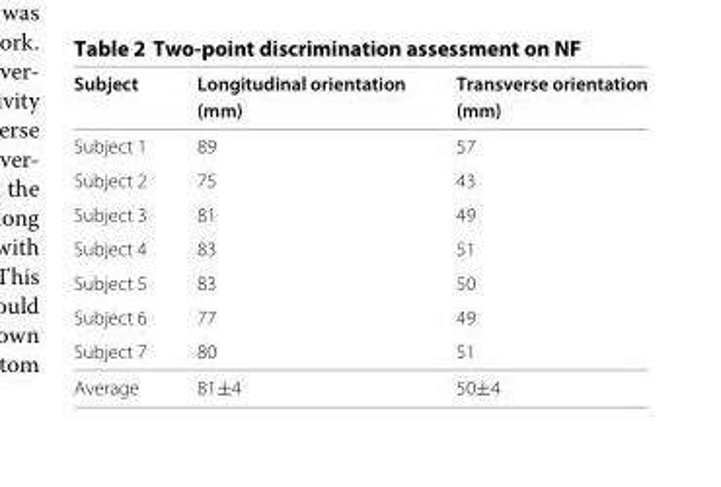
<table><thead><tr><td rowspan="2">Subject</td><td rowspan="2">Longitudinal orientation (mm)</td><td rowspan="2">Transverse orientation (mm)</td></tr><tr></tr></thead><tbody><tr><td>Subject 1</td><td>89</td><td>57</td></tr><tr><td>Subject 2</td><td>75</td><td>43</td></tr><tr><td>Subject 3</td><td>81</td><td>49</td></tr><tr><td>Subject 4</td><td>83</td><td>51</td></tr><tr><td>Subject 5</td><td>83</td><td>50</td></tr><tr><td>Subject 6</td><td>77</td><td>49</td></tr><tr><td>Subject 7</td><td>80</td><td>51</td></tr><tr><td>Average</td><td>81±4</td><td>50±4</td></tr></tbody></table>